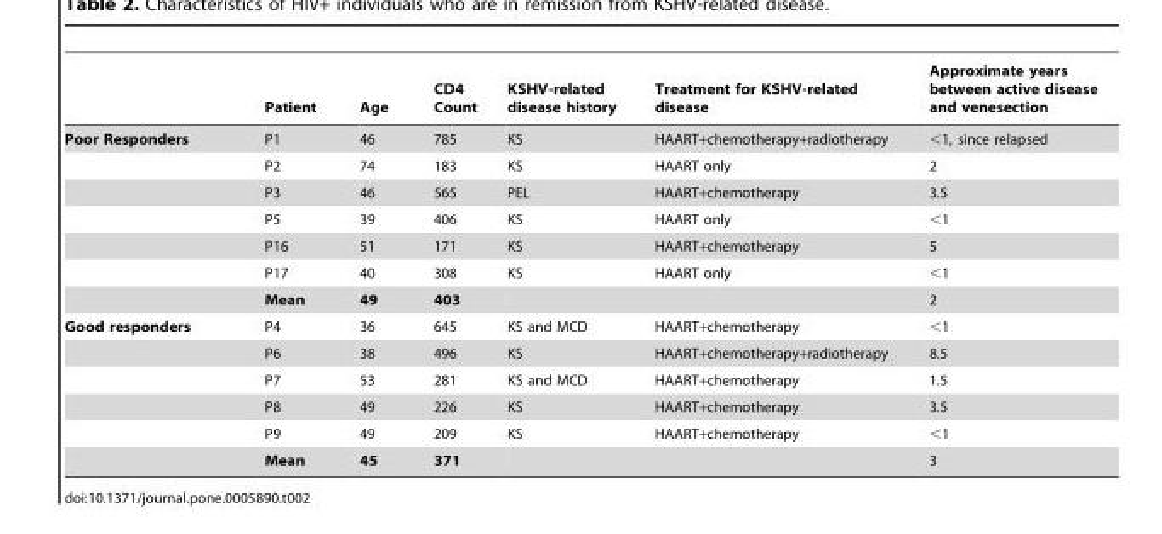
<table><thead><tr><td></td><td>Patient</td><td>Age</td><td>CD4 Count</td><td>KSHV-related disease history</td><td>Treatment for KSHV-related disease</td><td>Approximate years between active disease and venesection</td></tr></thead><tbody><tr><td rowspan="7">Poor Responders</td><td>P1</td><td>46</td><td>785</td><td>KS</td><td>HAART+chemotherapy+radiotherapy</td><td>&lt;1, since relapsed</td></tr><tr><td>P2</td><td>74</td><td>183</td><td>KS</td><td>HAART only</td><td>2</td></tr><tr><td>P3</td><td>46</td><td>565</td><td>PEL</td><td>HAART+chemotherapy</td><td>3.5</td></tr><tr><td>P5</td><td>39</td><td>406</td><td>KS</td><td>HAART only</td><td>&lt;1</td></tr><tr><td>P16</td><td>51</td><td>171</td><td>KS</td><td>HAART+chemotherapy</td><td>5</td></tr><tr><td>P17</td><td>40</td><td>308</td><td>KS</td><td>HAART only</td><td>&lt;1</td></tr><tr><td>Mean</td><td>49</td><td>403</td><td></td><td></td><td>2</td></tr><tr><td rowspan="6">Good responders</td><td>P4</td><td>36</td><td>645</td><td>KS and MCD</td><td>HAART+chemotherapy</td><td>&lt;1</td></tr><tr><td>P6</td><td>38</td><td>496</td><td>KS</td><td>HAART+chemotherapy+radiotherapy</td><td>8.5</td></tr><tr><td>P7</td><td>53</td><td>281</td><td>KS and MCD</td><td>HAART+chemotherapy</td><td>1.5</td></tr><tr><td>P8</td><td>49</td><td>226</td><td>KS</td><td>HAART+chemotherapy</td><td>3.5</td></tr><tr><td>P9</td><td>49</td><td>209</td><td>KS</td><td>HAART+chemotherapy</td><td>&lt;1</td></tr><tr><td>Mean</td><td>45</td><td>371</td><td></td><td></td><td>3</td></tr></tbody></table>